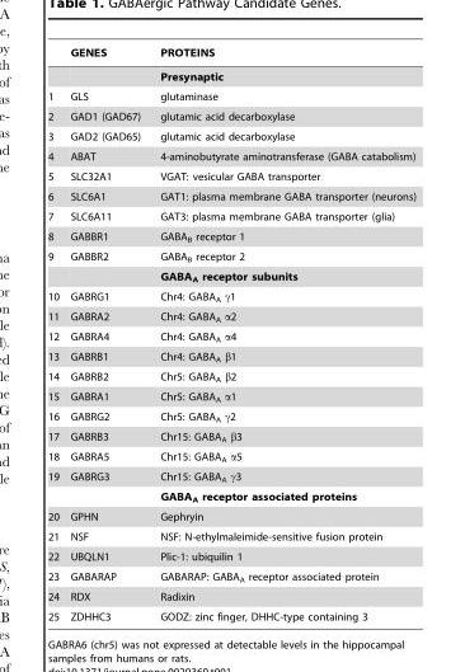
<table><thead><tr><td></td><td>GENES</td><td>PROTEINS</td></tr></thead><tbody><tr><td></td><td></td><td>Presynaptic</td></tr><tr><td>1</td><td>GLS</td><td>glutaminase</td></tr><tr><td>2</td><td>GAD1 (GAD67)</td><td>glutamic acid decarboxylase</td></tr><tr><td>3</td><td>GAD2 (GAD65)</td><td>glutamic acid decarboxylase</td></tr><tr><td>4</td><td>ABAT</td><td>4-aminobutyrate aminotransferase (GABA catabolism)</td></tr><tr><td>5</td><td>SLC32A1</td><td>VGAT: vesicular GABA transporter</td></tr><tr><td>6</td><td>SLC6A1</td><td>GAT1: plasma membrane GABA transporter (neurons)</td></tr><tr><td>7</td><td>SLC6A11</td><td>GAT3: plasma membrane GABA transporter (glia)</td></tr><tr><td>8</td><td>GABBR1</td><td>GABA<sub>B</sub> receptor 1</td></tr><tr><td rowspan="2">9</td><td>GABBR2</td><td>GABA<sub>B</sub> receptor 2</td></tr><tr><td></td><td>GABA<sub>A</sub> receptor subunits</td></tr><tr><td>10</td><td>GABRG1</td><td>Chr4: GABA<sub>A</sub> γ1</td></tr><tr><td>11</td><td>GABRA2</td><td>Chr4: GABA<sub>A</sub> α2</td></tr><tr><td>12</td><td>GABRA4</td><td>Chr4: GABA<sub>A</sub> α4</td></tr><tr><td>13</td><td>GABRB1</td><td>Chr4: GABA<sub>A</sub> β1</td></tr><tr><td>14</td><td>GABRB2</td><td>Chr5: GABA<sub>A</sub> β2</td></tr><tr><td>15</td><td>GABRA1</td><td>Chr5: GABA<sub>A</sub> α1</td></tr><tr><td>16</td><td>GABRG2</td><td>Chr5: GABA<sub>A</sub> γ2</td></tr><tr><td>17</td><td>GABRB3</td><td>Chr15: GABA<sub>A</sub> β3</td></tr><tr><td>18</td><td>GABRA5</td><td>Chr15: GABA<sub>A</sub> α5</td></tr><tr><td rowspan="2">19</td><td>GABRG3</td><td>Chr15: GABA<sub>A</sub> γ3</td></tr><tr><td></td><td>GABA<sub>A</sub> receptor associated proteins</td></tr><tr><td>20</td><td>GPHN</td><td>Gephryin</td></tr><tr><td>21</td><td>NSF</td><td>NSF: N-ethylmaleimide-sensitive fusion protein</td></tr><tr><td>22</td><td>UBQLN1</td><td>Plic-1: ubiquilin 1</td></tr><tr><td>23</td><td>GABARAP</td><td>GABARAP: GABA<sub>A</sub> receptor associated protein</td></tr><tr><td>24</td><td>RDX</td><td>Radixin</td></tr><tr><td>25</td><td>ZDHHC3</td><td>GODZ: zinc finger, DHHC-type containing 3</td></tr></tbody></table>